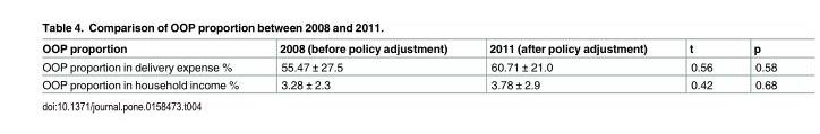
<table><thead><tr><td>OOP proportion</td><td>2008 (before policy adjustment)</td><td>2011 (after policy adjustment)</td><td>t</td><td>p</td></tr></thead><tbody><tr><td>OOP proportion in delivery expense %</td><td>55.47 ± 27.5</td><td>60.71 ± 21.0</td><td>0.56</td><td>0.58</td></tr><tr><td>OOP proportion in household income %</td><td>3.28 ± 2.3</td><td>3.78 ± 2.9</td><td>0.42</td><td>0.68</td></tr></tbody></table>